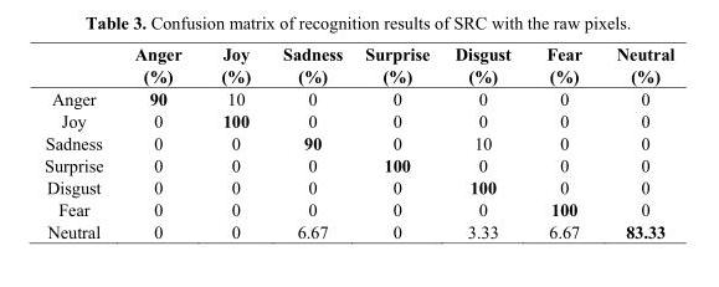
<table><thead><tr><td></td><td>Anger (%)</td><td>Joy (%)</td><td>Sadness (%)</td><td>Surprise (%)</td><td>Disgust (%)</td><td>Fear (%)</td><td>Neutral (%)</td></tr></thead><tbody><tr><td>Anger</td><td>90</td><td>10</td><td>0</td><td>0</td><td>0</td><td>0</td><td>0</td></tr><tr><td>Joy</td><td>0</td><td>100</td><td>0</td><td>0</td><td>0</td><td>0</td><td>0</td></tr><tr><td>Sadness</td><td>0</td><td>0</td><td>90</td><td>0</td><td>10</td><td>0</td><td>0</td></tr><tr><td>Surprise</td><td>0</td><td>0</td><td>0</td><td>100</td><td>0</td><td>0</td><td>0</td></tr><tr><td>Disgust</td><td>0</td><td>0</td><td>0</td><td>0</td><td>100</td><td>0</td><td>0</td></tr><tr><td>Fear</td><td>0</td><td>0</td><td>0</td><td>0</td><td>0</td><td>100</td><td>0</td></tr><tr><td>Neutral</td><td>0</td><td>0</td><td>6.67</td><td>0</td><td>3.33</td><td>6.67</td><td>83.33</td></tr></tbody></table>